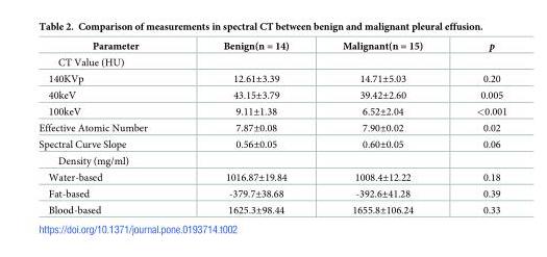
<table><thead><tr><td>Parameter</td><td>Benign(n = 14)</td><td>Malignant(n = 15)</td><td>p</td></tr></thead><tbody><tr><td colspan="4">CT Value (HU)</td></tr><tr><td>140KVp</td><td>12.61±3.39</td><td>14.71±5.03</td><td>0.20</td></tr><tr><td>40keV</td><td>43.15±3.79</td><td>39.42±2.60</td><td>0.005</td></tr><tr><td>100keV</td><td>9.11±1.38</td><td>6.52±2.04</td><td>&lt;0.001</td></tr><tr><td>Effective Atomic Number</td><td>7.87±0.08</td><td>7.90±0.02</td><td>0.02</td></tr><tr><td>Spectral Curve Slope</td><td>0.56±0.05</td><td>0.60±0.05</td><td>0.06</td></tr><tr><td colspan="4">Density (mg/ml)</td></tr><tr><td>Water-based</td><td>1016.87±19.84</td><td>1008.4±12.22</td><td>0.18</td></tr><tr><td>Fat-based</td><td>-379.7±38.68</td><td>-392.6±41.28</td><td>0.39</td></tr><tr><td>Blood-based</td><td>1625.3±98.44</td><td>1655.8±106.24</td><td>0.33</td></tr></tbody></table>